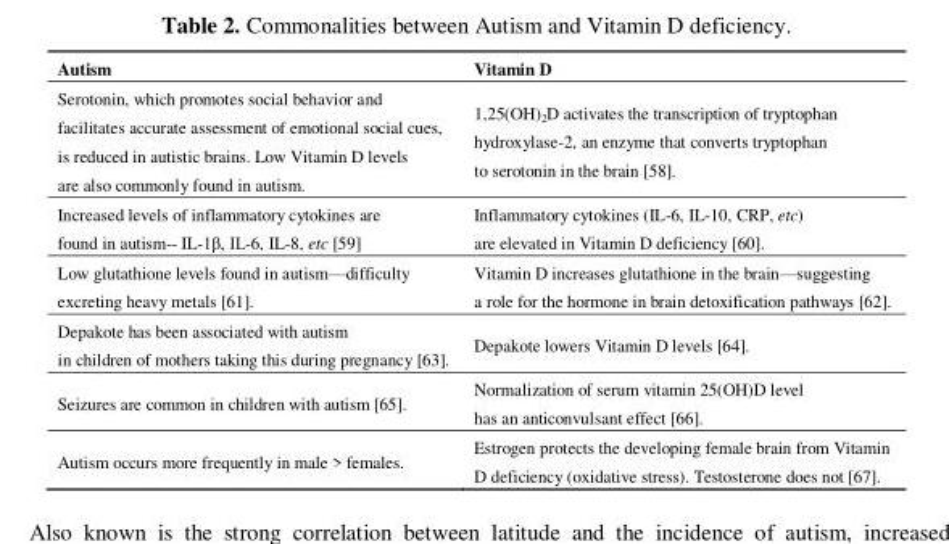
<table><thead><tr><td>Autism</td><td>Vitamin D</td></tr></thead><tbody><tr><td>Serotonin, which promotes social behavior and facilitates accurate assessment of emotional social cues, is reduced in autistic brains. Low Vitamin D levels are also commonly found in autism.</td><td>1,25(OH)<sub>2</sub>D activates the transcription of tryptophan hydroxylase-2, an enzyme that converts tryptophan to serotonin in the brain [58].</td></tr><tr><td>Increased levels of inflammatory cytokines are found in autism-- IL-1β, IL-6, IL-8, etc [59]</td><td>Inflammatory cytokines (IL-6, IL-10, CRP, etc) are elevated in Vitamin D deficiency [60].</td></tr><tr><td>Low glutathione levels found in autism—difficulty excreting heavy metals [61].</td><td>Vitamin D increases glutathione in the brain—suggesting a role for the hormone in brain detoxification pathways [62].</td></tr><tr><td>Depakote has been associated with autism in children of mothers taking this during pregnancy [63].</td><td>Depakote lowers Vitamin D levels [64].</td></tr><tr><td>Seizures are common in children with autism [65].</td><td>Normalization of serum vitamin 25(OH)D level has an anticonvulsant effect [66].</td></tr><tr><td>Autism occurs more frequently in male &gt; females.</td><td>Estrogen protects the developing female brain from Vitamin D deficiency (oxidative stress). Testosterone does not [67].</td></tr></tbody></table>